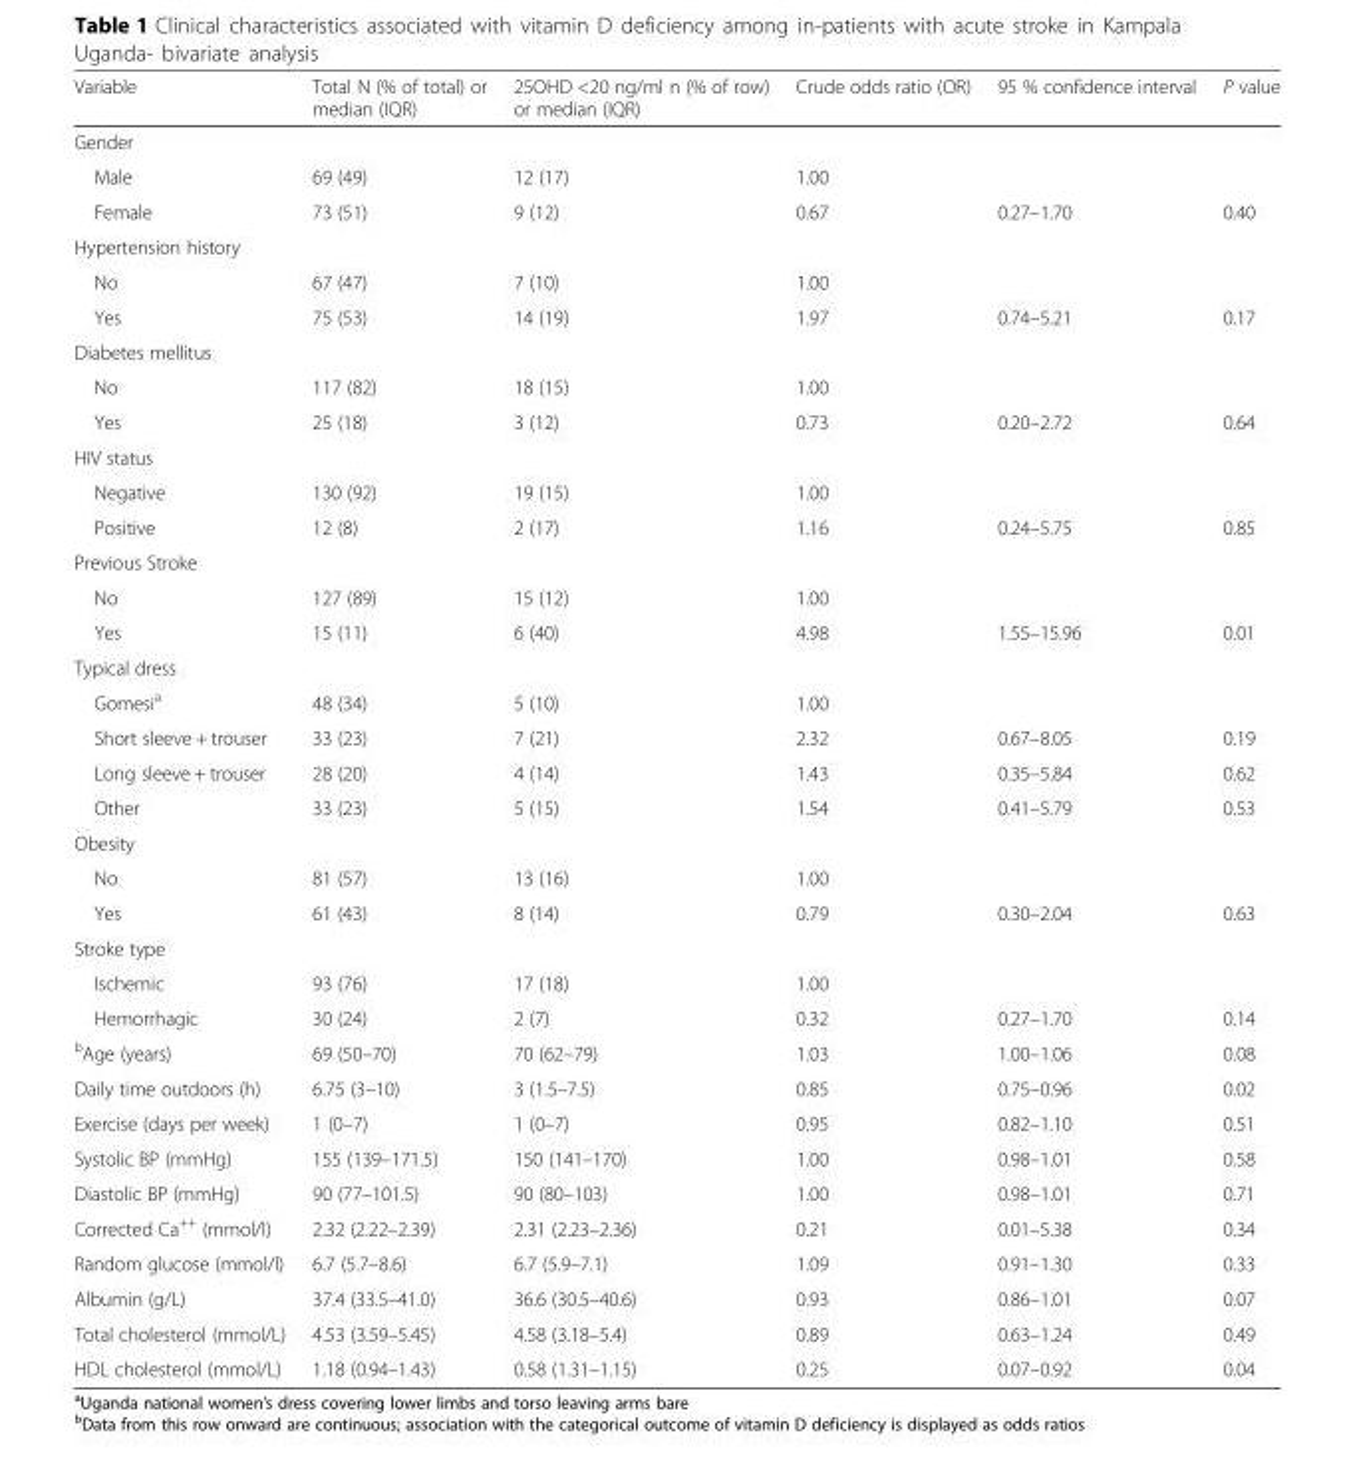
<table><thead><tr><td>Variable</td><td>Total N (% of total) or median (IQR)</td><td>25OHD &lt;20 ng/ml n (% of row) or median (IQR)</td><td>Crude odds ratio (OR)</td><td>95 % confidence interval</td><td>P value</td></tr></thead><tbody><tr><td colspan="6">Gender</td></tr><tr><td>Male</td><td>69 (49)</td><td>12 (17)</td><td>1.00</td><td></td><td></td></tr><tr><td>Female</td><td>73 (51)</td><td>9 (12)</td><td>0.67</td><td>0.27–1.70</td><td>0.40</td></tr><tr><td colspan="6">Hypertension history</td></tr><tr><td>No</td><td>67 (47)</td><td>7 (10)</td><td>1.00</td><td></td><td></td></tr><tr><td>Yes</td><td>75 (53)</td><td>14 (19)</td><td>1.97</td><td>0.74–5.21</td><td>0.17</td></tr><tr><td colspan="6">Diabetes mellitus</td></tr><tr><td>No</td><td>117 (82)</td><td>18 (15)</td><td>1.00</td><td></td><td></td></tr><tr><td>Yes</td><td>25 (18)</td><td>3 (12)</td><td>0.73</td><td>0.20–2.72</td><td>0.64</td></tr><tr><td colspan="6">HIV status</td></tr><tr><td>Negative</td><td>130 (92)</td><td>19 (15)</td><td>1.00</td><td></td><td></td></tr><tr><td>Positive</td><td>12 (8)</td><td>2 (17)</td><td>1.16</td><td>0.24–5.75</td><td>0.85</td></tr><tr><td colspan="6">Previous Stroke</td></tr><tr><td>No</td><td>127 (89)</td><td>15 (12)</td><td>1.00</td><td></td><td></td></tr><tr><td>Yes</td><td>15 (11)</td><td>6 (40)</td><td>4.98</td><td>1.55–15.96</td><td>0.01</td></tr><tr><td colspan="6">Typical dress</td></tr><tr><td>Gomesi<sup>a</sup></td><td>48 (34)</td><td>5 (10)</td><td>1.00</td><td></td><td></td></tr><tr><td>Short sleeve + trouser</td><td>33 (23)</td><td>7 (21)</td><td>2.32</td><td>0.67–8.05</td><td>0.19</td></tr><tr><td>Long sleeve + trouser</td><td>28 (20)</td><td>4 (14)</td><td>1.43</td><td>0.35–5.84</td><td>0.62</td></tr><tr><td>Other</td><td>33 (23)</td><td>5 (15)</td><td>1.54</td><td>0.41–5.79</td><td>0.53</td></tr><tr><td colspan="6">Obesity</td></tr><tr><td>No</td><td>81 (57)</td><td>13 (16)</td><td>1.00</td><td></td><td></td></tr><tr><td>Yes</td><td>61 (43)</td><td>8 (14)</td><td>0.79</td><td>0.30–2.04</td><td>0.63</td></tr><tr><td colspan="6">Stroke type</td></tr><tr><td>Ischemic</td><td>93 (76)</td><td>17 (18)</td><td>1.00</td><td></td><td></td></tr><tr><td>Hemorrhagic</td><td>30 (24)</td><td>2 (7)</td><td>0.32</td><td>0.27–1.70</td><td>0.14</td></tr><tr><td><sup>b</sup>Age (years)</td><td>69 (50–70)</td><td>70 (62–79)</td><td>1.03</td><td>1.00–1.06</td><td>0.08</td></tr><tr><td>Daily time outdoors (h)</td><td>6.75 (3–10)</td><td>3 (1.5–7.5)</td><td>0.85</td><td>0.75–0.96</td><td>0.02</td></tr><tr><td>Exercise (days per week)</td><td>1 (0–7)</td><td>1 (0–7)</td><td>0.95</td><td>0.82–1.10</td><td>0.51</td></tr><tr><td>Systolic BP (mmHg)</td><td>155 (139–171.5)</td><td>150 (141–170)</td><td>1.00</td><td>0.98–1.01</td><td>0.58</td></tr><tr><td>Diastolic BP (mmHg)</td><td>90 (77–101.5)</td><td>90 (80–103)</td><td>1.00</td><td>0.98–1.01</td><td>0.71</td></tr><tr><td>Corrected Ca<sup>++</sup> (mmol/l)</td><td>2.32 (2.22–2.39)</td><td>2.31 (2.23–2.36)</td><td>0.21</td><td>0.01–5.38</td><td>0.34</td></tr><tr><td>Random glucose (mmol/l)</td><td>6.7 (5.7–8.6)</td><td>6.7 (5.9–7.1)</td><td>1.09</td><td>0.91–1.30</td><td>0.33</td></tr><tr><td>Albumin (g/L)</td><td>37.4 (33.5–41.0)</td><td>36.6 (30.5–40.6)</td><td>0.93</td><td>0.86–1.01</td><td>0.07</td></tr><tr><td>Total cholesterol (mmol/L)</td><td>4.53 (3.59–5.45)</td><td>4.58 (3.18–5.4)</td><td>0.89</td><td>0.63–1.24</td><td>0.49</td></tr><tr><td>HDL cholesterol (mmol/L)</td><td>1.18 (0.94–1.43)</td><td>0.58 (1.31–1.15)</td><td>0.25</td><td>0.07–0.92</td><td>0.04</td></tr></tbody></table>